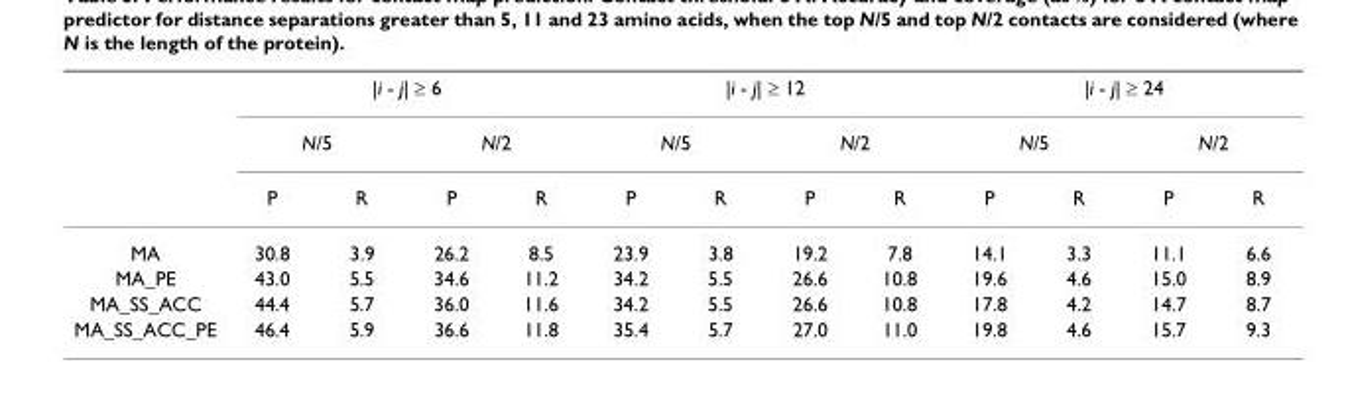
<table><thead><tr><td rowspan="3"></td><td colspan="4">|i - j| ≥ 6</td><td colspan="4">|i - j| ≥ 12</td><td colspan="4">|i - j| ≥ 24</td></tr><tr><td colspan="2">N/5</td><td colspan="2">N/2</td><td colspan="2">N/5</td><td colspan="2">N/2</td><td colspan="2">N/5</td><td colspan="2">N/2</td></tr><tr><td>P</td><td>R</td><td>P</td><td>R</td><td>P</td><td>R</td><td>P</td><td>R</td><td>P</td><td>R</td><td>P</td><td>R</td></tr></thead><tbody><tr><td>MA</td><td>30.8</td><td>3.9</td><td>26.2</td><td>8.5</td><td>23.9</td><td>3.8</td><td>19.2</td><td>7.8</td><td>14.1</td><td>3.3</td><td>11.1</td><td>6.6</td></tr><tr><td>MA_PE</td><td>43.0</td><td>5.5</td><td>34.6</td><td>11.2</td><td>34.2</td><td>5.5</td><td>26.6</td><td>10.8</td><td>19.6</td><td>4.6</td><td>15.0</td><td>8.9</td></tr><tr><td>MA_SS_ACC</td><td>44.4</td><td>5.7</td><td>36.0</td><td>11.6</td><td>34.2</td><td>5.5</td><td>26.6</td><td>10.8</td><td>17.8</td><td>4.2</td><td>14.7</td><td>8.7</td></tr><tr><td>MA_SS_ACC_PE</td><td>46.4</td><td>5.9</td><td>36.6</td><td>11.8</td><td>35.4</td><td>5.7</td><td>27.0</td><td>11.0</td><td>19.8</td><td>4.6</td><td>15.7</td><td>9.3</td></tr></tbody></table>